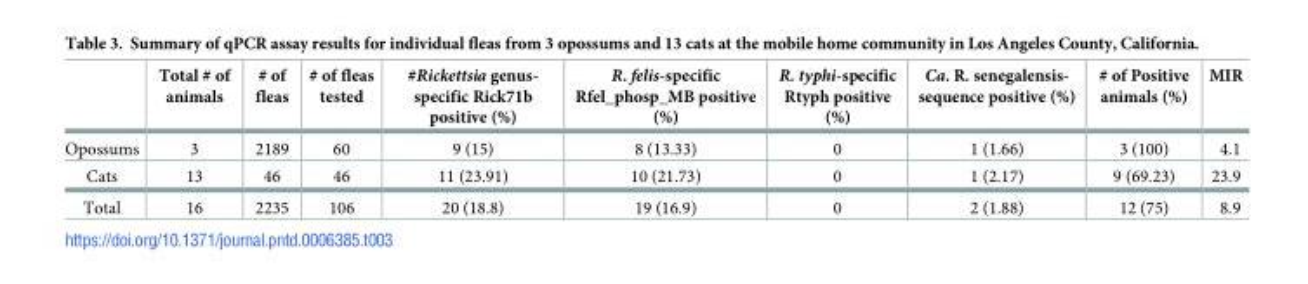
<table><thead><tr><td></td><td>Total # of animals</td><td># of fleas</td><td># of fleas tested</td><td>#Rickettsia genus- specific Rick71b positive (%)</td><td>R. felis-specific Rfel_phosp_MB positive (%)</td><td>R. typhi-specific Rtyph positive (%)</td><td>Ca. R. senegalensis- sequence positive (%)</td><td># of Positive animals (%)</td><td>MIR</td></tr></thead><tbody><tr><td>Opossums</td><td>3</td><td>2189</td><td>60</td><td>9 (15)</td><td>8 (13.33)</td><td>0</td><td>1 (1.66)</td><td>3 (100)</td><td>4.1</td></tr><tr><td>Cats</td><td>13</td><td>46</td><td>46</td><td>11 (23.91)</td><td>10 (21.73)</td><td>0</td><td>1 (2.17)</td><td>9 (69.23)</td><td>23.9</td></tr><tr><td>Total</td><td>16</td><td>2235</td><td>106</td><td>20 (18.8)</td><td>19 (16.9)</td><td>0</td><td>2 (1.88)</td><td>12 (75)</td><td>8.9</td></tr></tbody></table>